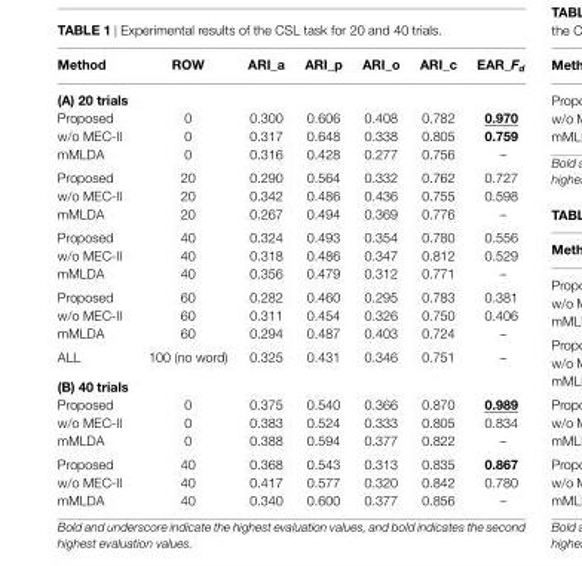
<table><thead><tr><td>Method</td><td>ROW</td><td>ARI_a</td><td>ARI_p</td><td>ARI_o</td><td>ARI_c</td><td>EAR_F<sub>d</sub></td></tr></thead><tbody><tr><td colspan="7">(A) 20 trials</td></tr><tr><td>Proposed</td><td>0</td><td>0.300</td><td>0.606</td><td>0.408</td><td>0.782</td><td>0.970</td></tr><tr><td>w/o MEC-II</td><td>0</td><td>0.317</td><td>0.648</td><td>0.338</td><td>0.805</td><td>0.759</td></tr><tr><td>mMLDA</td><td>0</td><td>0.316</td><td>0.428</td><td>0.277</td><td>0.756</td><td>–</td></tr><tr><td>Proposed</td><td>20</td><td>0.290</td><td>0.564</td><td>0.332</td><td>0.762</td><td>0.727</td></tr><tr><td>w/o MEC-II</td><td>20</td><td>0.342</td><td>0.486</td><td>0.436</td><td>0.755</td><td>0.598</td></tr><tr><td>mMLDA</td><td>20</td><td>0.267</td><td>0.494</td><td>0.369</td><td>0.776</td><td>–</td></tr><tr><td>Proposed</td><td>40</td><td>0.324</td><td>0.493</td><td>0.354</td><td>0.780</td><td>0.556</td></tr><tr><td>w/o MEC-II</td><td>40</td><td>0.318</td><td>0.486</td><td>0.347</td><td>0.812</td><td>0.529</td></tr><tr><td>mMLDA</td><td>40</td><td>0.356</td><td>0.479</td><td>0.312</td><td>0.771</td><td>–</td></tr><tr><td>Proposed</td><td>60</td><td>0.282</td><td>0.460</td><td>0.295</td><td>0.783</td><td>0.381</td></tr><tr><td>w/o MEC-II</td><td>60</td><td>0.311</td><td>0.454</td><td>0.326</td><td>0.750</td><td>0.406</td></tr><tr><td>mMLDA</td><td>60</td><td>0.294</td><td>0.487</td><td>0.403</td><td>0.724</td><td>–</td></tr><tr><td>ALL</td><td>100 (no word)</td><td>0.325</td><td>0.431</td><td>0.346</td><td>0.751</td><td>–</td></tr><tr><td colspan="7">(B) 40 trials</td></tr><tr><td>Proposed</td><td>0</td><td>0.375</td><td>0.540</td><td>0.366</td><td>0.870</td><td>0.989</td></tr><tr><td>w/o MEC-II</td><td>0</td><td>0.383</td><td>0.524</td><td>0.333</td><td>0.805</td><td>0.834</td></tr><tr><td>mMLDA</td><td>0</td><td>0.388</td><td>0.594</td><td>0.377</td><td>0.822</td><td>–</td></tr><tr><td>Proposed</td><td>40</td><td>0.368</td><td>0.543</td><td>0.313</td><td>0.835</td><td>0.867</td></tr><tr><td>w/o MEC-II</td><td>40</td><td>0.417</td><td>0.577</td><td>0.320</td><td>0.842</td><td>0.780</td></tr><tr><td>mMLDA</td><td>40</td><td>0.340</td><td>0.600</td><td>0.377</td><td>0.856</td><td>–</td></tr></tbody></table>